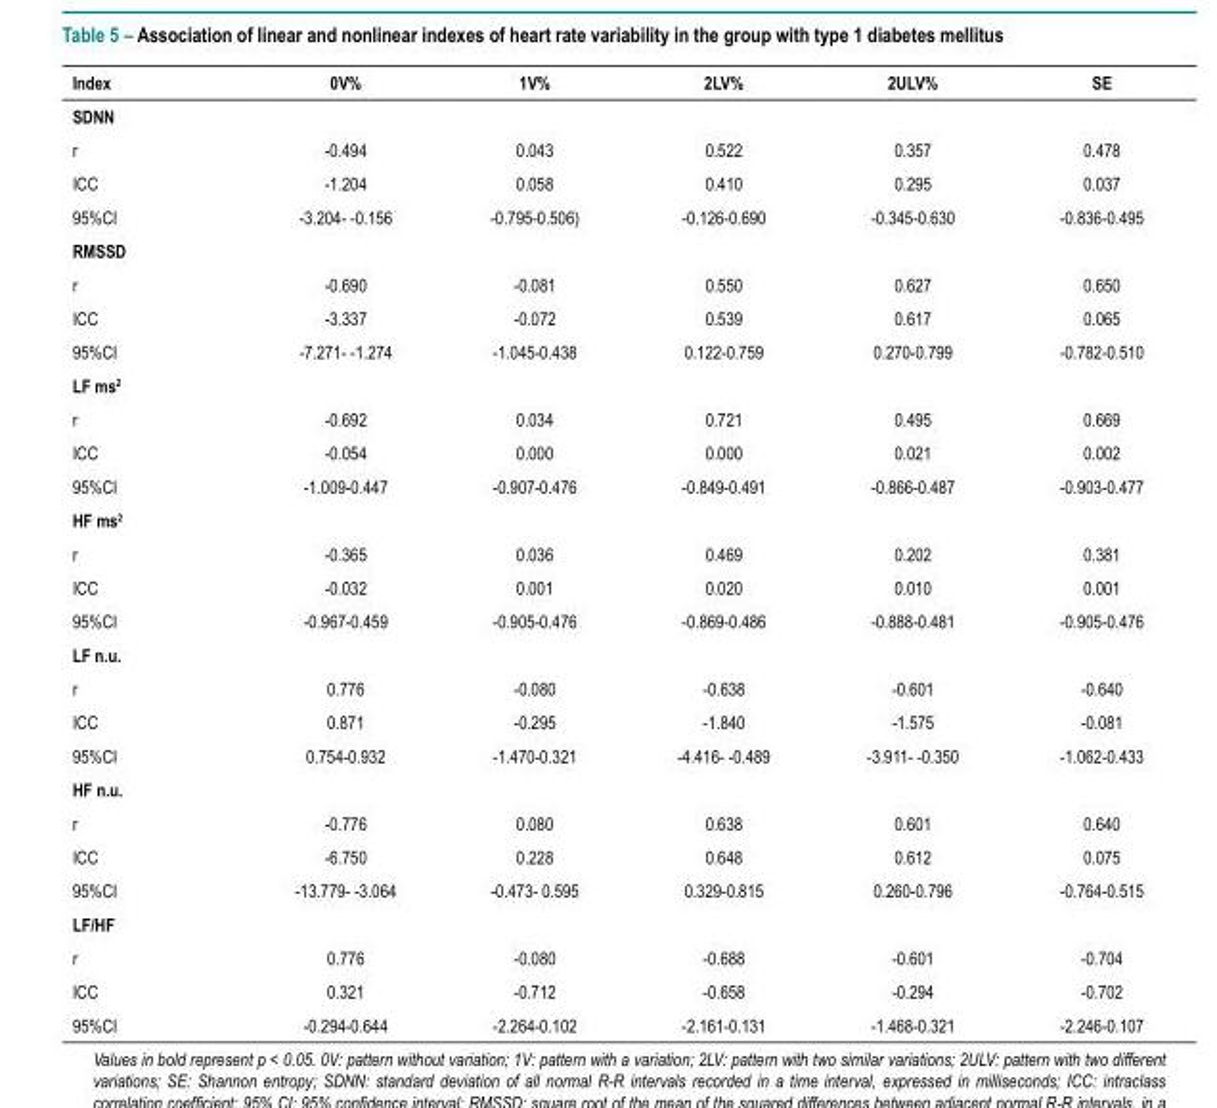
<table><thead><tr><td>Index</td><td>0V%</td><td>1V%</td><td>2LV%</td><td>2ULV%</td><td>SE</td></tr></thead><tbody><tr><td colspan="6">SDNN</td></tr><tr><td>r</td><td>-0.494</td><td>0.043</td><td>0.522</td><td>0.357</td><td>0.478</td></tr><tr><td>ICC</td><td>-1.204</td><td>0.058</td><td>0.410</td><td>0.295</td><td>0.037</td></tr><tr><td>95%CI</td><td>-3.204- -0.156</td><td>-0.795-0.506)</td><td>-0.126-0.690</td><td>-0.345-0.630</td><td>-0.836-0.495</td></tr><tr><td colspan="6">RMSSD</td></tr><tr><td>r</td><td>-0.690</td><td>-0.081</td><td>0.550</td><td>0.627</td><td>0.650</td></tr><tr><td>ICC</td><td>-3.337</td><td>-0.072</td><td>0.539</td><td>0.617</td><td>0.065</td></tr><tr><td>95%CI</td><td>-7.271- -1.274</td><td>-1.045-0.438</td><td>0.122-0.759</td><td>0.270-0.799</td><td>-0.782-0.510</td></tr><tr><td colspan="6">LF ms<sup>2</sup></td></tr><tr><td>r</td><td>-0.692</td><td>0.034</td><td>0.721</td><td>0.495</td><td>0.669</td></tr><tr><td>ICC</td><td>-0.054</td><td>0.000</td><td>0.000</td><td>0.021</td><td>0.002</td></tr><tr><td>95%CI</td><td>-1.009-0.447</td><td>-0.907-0.476</td><td>-0.849-0.491</td><td>-0.866-0.487</td><td>-0.903-0.477</td></tr><tr><td colspan="6">HF ms<sup>2</sup></td></tr><tr><td>r</td><td>-0.365</td><td>0.036</td><td>0.469</td><td>0.202</td><td>0.381</td></tr><tr><td>ICC</td><td>-0.032</td><td>0.001</td><td>0.020</td><td>0.010</td><td>0.001</td></tr><tr><td>95%CI</td><td>-0.967-0.459</td><td>-0.905-0.476</td><td>-0.869-0.486</td><td>-0.888-0.481</td><td>-0.905-0.476</td></tr><tr><td colspan="6">LF n.u.</td></tr><tr><td>r</td><td>0.776</td><td>-0.080</td><td>-0.638</td><td>-0.601</td><td>-0.640</td></tr><tr><td>ICC</td><td>0.871</td><td>-0.295</td><td>-1.840</td><td>-1.575</td><td>-0.081</td></tr><tr><td>95%CI</td><td>0.754-0.932</td><td>-1.470-0.321</td><td>-4.416- -0.489</td><td>-3.911- -0.350</td><td>-1.062-0.433</td></tr><tr><td colspan="6">HF n.u.</td></tr><tr><td>r</td><td>-0.776</td><td>0.080</td><td>0.638</td><td>0.601</td><td>0.640</td></tr><tr><td>ICC</td><td>-6.750</td><td>0.228</td><td>0.648</td><td>0.612</td><td>0.075</td></tr><tr><td>95%CI</td><td>-13.779- -3.064</td><td>-0.473- 0.595</td><td>0.329-0.815</td><td>0.260-0.796</td><td>-0.764-0.515</td></tr><tr><td colspan="6">LF/HF</td></tr><tr><td>r</td><td>0.776</td><td>-0.080</td><td>-0.688</td><td>-0.601</td><td>-0.704</td></tr><tr><td>ICC</td><td>0.321</td><td>-0.712</td><td>-0.658</td><td>-0.294</td><td>-0.702</td></tr><tr><td>95%CI</td><td>-0.294-0.644</td><td>-2.264-0.102</td><td>-2.161-0.131</td><td>-1.468-0.321</td><td>-2.246-0.107</td></tr></tbody></table>